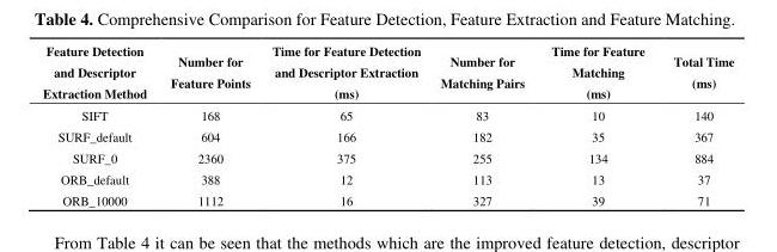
<table><thead><tr><td>Feature Detection and Descriptor Extraction Method</td><td>Number for Feature Points</td><td>Time for Feature Detection and Descriptor Extraction (ms)</td><td>Number for Matching Pairs</td><td>Time for Feature Matching (ms)</td><td>Total Time (ms)</td></tr></thead><tbody><tr><td>SIFT</td><td>168</td><td>65</td><td>83</td><td>10</td><td>140</td></tr><tr><td>SURF_default</td><td>604</td><td>166</td><td>182</td><td>35</td><td>367</td></tr><tr><td>SURF_0</td><td>2360</td><td>375</td><td>255</td><td>134</td><td>884</td></tr><tr><td>ORB_default</td><td>388</td><td>12</td><td>113</td><td>13</td><td>37</td></tr><tr><td>ORB_10000</td><td>1112</td><td>16</td><td>327</td><td>39</td><td>71</td></tr></tbody></table>